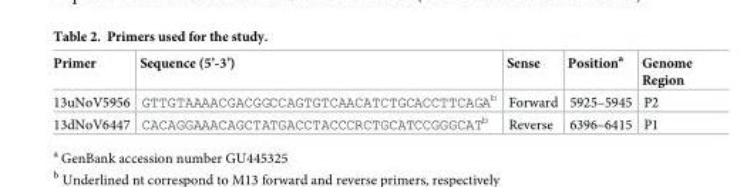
<table><thead><tr><td>Primer</td><td>Sequence (5’-3’)</td><td>Sense</td><td>Position<sup>a</sup></td><td>Genome Region</td></tr></thead><tbody><tr><td>13uNoV5956</td><td>GTTGTAAAACGACGGCCAGTGTCAACATCTGCACCTTCAGA<sup>b</sup></td><td>Forward</td><td>5925–5945</td><td>P2</td></tr><tr><td>13dNoV6447</td><td>CACAGGAAACAGCTATGACCTACCCRCTGCATCCGGGCAT<sup>b</sup></td><td>Reverse</td><td>6396–6415</td><td>P1</td></tr></tbody></table>